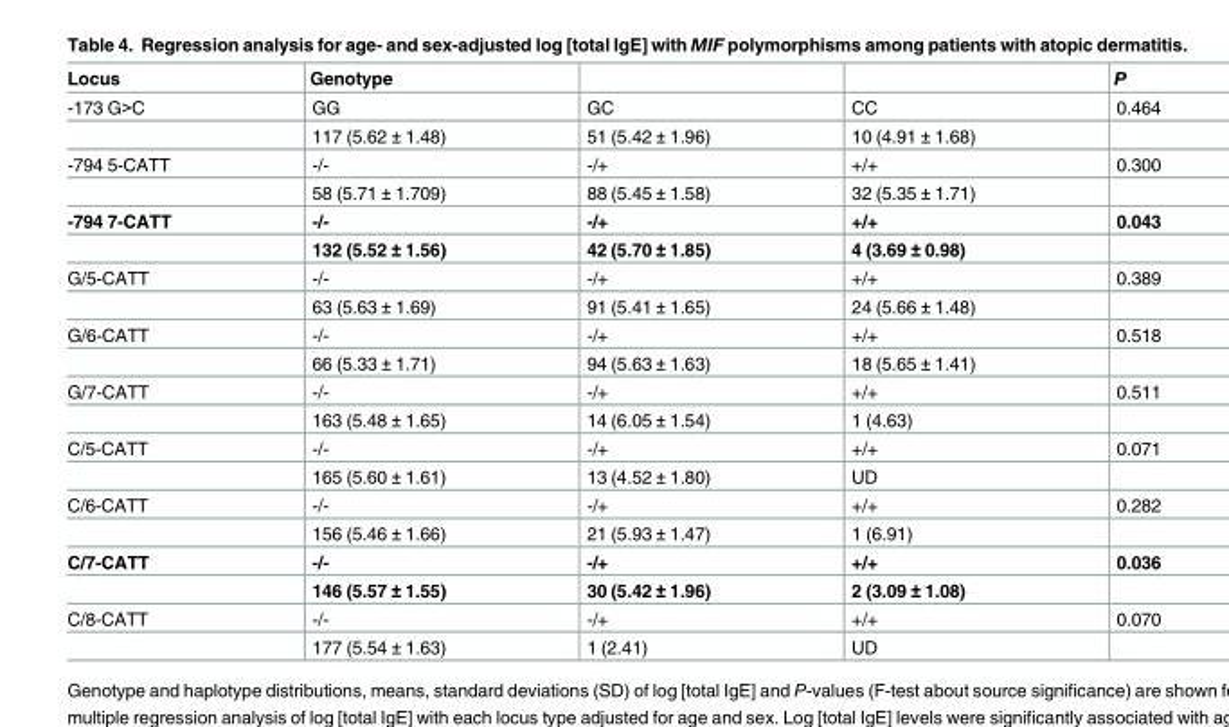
<table><thead><tr><td>Locus</td><td>Genotype</td><td></td><td></td><td>P</td></tr></thead><tbody><tr><td rowspan="2">-173 G&gt;C</td><td>GG</td><td>GC</td><td>CC</td><td>0.464</td></tr><tr><td>117 (5.62 ± 1.48)</td><td>51 (5.42 ± 1.96)</td><td>10 (4.91 ± 1.68)</td><td></td></tr><tr><td rowspan="2">-794 5-CATT</td><td>-/-</td><td>-/+</td><td>+/+</td><td>0.300</td></tr><tr><td>58 (5.71 ± 1.709)</td><td>88 (5.45 ± 1.58)</td><td>32 (5.35 ± 1.71)</td><td></td></tr><tr><td rowspan="2">-794 7-CATT</td><td>-/-</td><td>-/+</td><td>+/+</td><td>0.043</td></tr><tr><td>132 (5.52 ± 1.56)</td><td>42 (5.70 ± 1.85)</td><td>4 (3.69 ± 0.98)</td><td></td></tr><tr><td rowspan="2">G/5-CATT</td><td>-/-</td><td>-/+</td><td>+/+</td><td>0.389</td></tr><tr><td>63 (5.63 ± 1.69)</td><td>91 (5.41 ± 1.65)</td><td>24 (5.66 ± 1.48)</td><td></td></tr><tr><td rowspan="2">G/6-CATT</td><td>-/-</td><td>-/+</td><td>+/+</td><td>0.518</td></tr><tr><td>66 (5.33 ± 1.71)</td><td>94 (5.63 ± 1.63)</td><td>18 (5.65 ± 1.41)</td><td></td></tr><tr><td rowspan="2">G/7-CATT</td><td>-/-</td><td>-/+</td><td>+/+</td><td>0.511</td></tr><tr><td>163 (5.48 ± 1.65)</td><td>14 (6.05 ± 1.54)</td><td>1 (4.63)</td><td></td></tr><tr><td rowspan="2">C/5-CATT</td><td>-/-</td><td>-/+</td><td>+/+</td><td>0.071</td></tr><tr><td>165 (5.60 ± 1.61)</td><td>13 (4.52 ± 1.80)</td><td>UD</td><td></td></tr><tr><td rowspan="2">C/6-CATT</td><td>-/-</td><td>-/+</td><td>+/+</td><td>0.282</td></tr><tr><td>156 (5.46 ± 1.66)</td><td>21 (5.93 ± 1.47)</td><td>1 (6.91)</td><td></td></tr><tr><td rowspan="2">C/7-CATT</td><td>-/-</td><td>-/+</td><td>+/+</td><td>0.036</td></tr><tr><td>146 (5.57 ± 1.55)</td><td>30 (5.42 ± 1.96)</td><td>2 (3.09 ± 1.08)</td><td></td></tr><tr><td rowspan="2">C/8-CATT</td><td>-/-</td><td>-/+</td><td>+/+</td><td>0.070</td></tr><tr><td>177 (5.54 ± 1.63)</td><td>1 (2.41)</td><td>UD</td><td></td></tr></tbody></table>